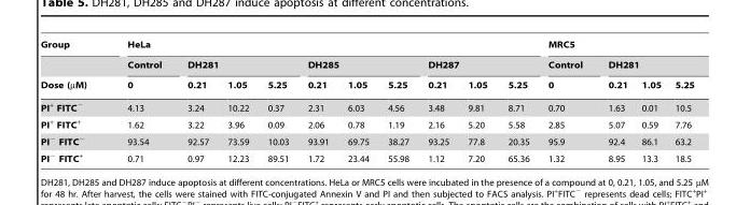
<table><thead><tr><td rowspan="3">Group Dose (µM)</td><td colspan="10">HeLa</td><td colspan="4">MRC5</td></tr><tr><td rowspan="2">Control 0</td><td colspan="3">DH281</td><td colspan="3">DH285</td><td colspan="3">DH287</td><td rowspan="2">Control 0</td><td colspan="3">DH281</td></tr><tr><td>0.21</td><td>1.05</td><td>5.25</td><td>0.21</td><td>1.05</td><td>5.25</td><td>0.21</td><td>1.05</td><td>5.25</td><td>0.21</td><td>1.05</td><td>5.25</td></tr></thead><tbody><tr><td>PI<sup>+</sup> FITC<sup>−</sup></td><td>4.13</td><td>3.24</td><td>10.22</td><td>0.37</td><td>2.31</td><td>6.03</td><td>4.56</td><td>3.48</td><td>9.81</td><td>8.71</td><td>0.70</td><td>1.63</td><td>0.01</td><td>10.5</td></tr><tr><td>PI<sup>+</sup> FITC<sup>+</sup></td><td>1.62</td><td>3.22</td><td>3.96</td><td>0.09</td><td>2.06</td><td>0.78</td><td>1.19</td><td>2.16</td><td>5.20</td><td>5.58</td><td>2.85</td><td>5.07</td><td>0.59</td><td>7.76</td></tr><tr><td>PI<sup>−</sup> FITC<sup>−</sup></td><td>93.54</td><td>92.57</td><td>73.59</td><td>10.03</td><td>93.91</td><td>69.75</td><td>38.27</td><td>93.25</td><td>77.8</td><td>20.35</td><td>95.9</td><td>92.4</td><td>86.1</td><td>63.2</td></tr><tr><td>PI<sup>−</sup> FITC<sup>+</sup></td><td>0.71</td><td>0.97</td><td>12.23</td><td>89.51</td><td>1.72</td><td>23.44</td><td>55.98</td><td>1.12</td><td>7.20</td><td>65.36</td><td>1.32</td><td>8.95</td><td>13.3</td><td>18.5</td></tr></tbody></table>